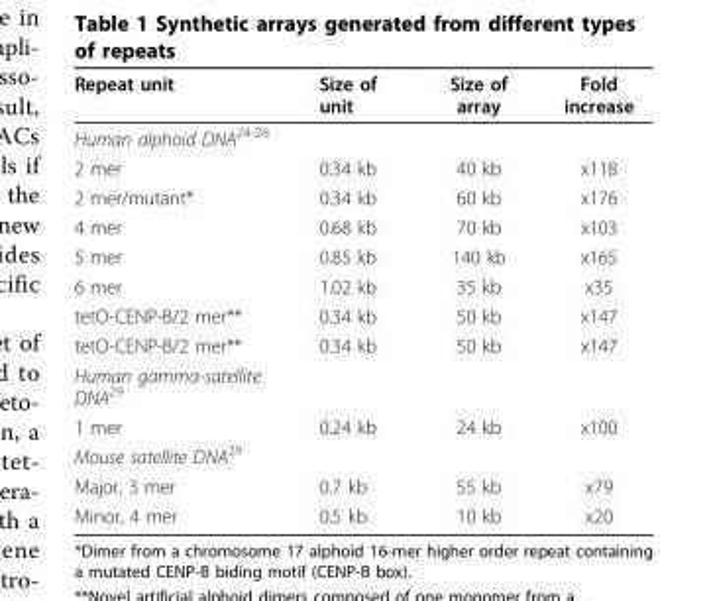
<table><thead><tr><td>Repeat unit</td><td>Size of unit</td><td>Size of array</td><td>Fold increase</td></tr></thead><tbody><tr><td colspan="4">Human alphoid DNA<sup>24-28</sup></td></tr><tr><td>2 mer</td><td>0.34 kb</td><td>40 kb</td><td>x118</td></tr><tr><td>2 mer/mutant*</td><td>0.34 kb</td><td>60 kb</td><td>x176</td></tr><tr><td>4 mer</td><td>0.68 kb</td><td>70 kb</td><td>x103</td></tr><tr><td>5 mer</td><td>0.85 kb</td><td>140 kb</td><td>x165</td></tr><tr><td>6 mer</td><td>1.02 kb</td><td>35 kb</td><td>x35</td></tr><tr><td>tetO-CENP-B/2 mer**</td><td>0.34 kb</td><td>50 kb</td><td>x147</td></tr><tr><td>tetO-CENP-B/2 mer**</td><td>0.34 kb</td><td>50 kb</td><td>x147</td></tr><tr><td colspan="4">Human gamma-satellite DNA<sup>29</sup></td></tr><tr><td>1 mer</td><td>0.24 kb</td><td>24 kb</td><td>x100</td></tr><tr><td colspan="4">Mouse satellite DNA<sup>29</sup></td></tr><tr><td>Major, 3 mer</td><td>0.7 kb</td><td>55 kb</td><td>x79</td></tr><tr><td>Minor, 4 mer</td><td>0.5 kb</td><td>10 kb</td><td>x20</td></tr></tbody></table>